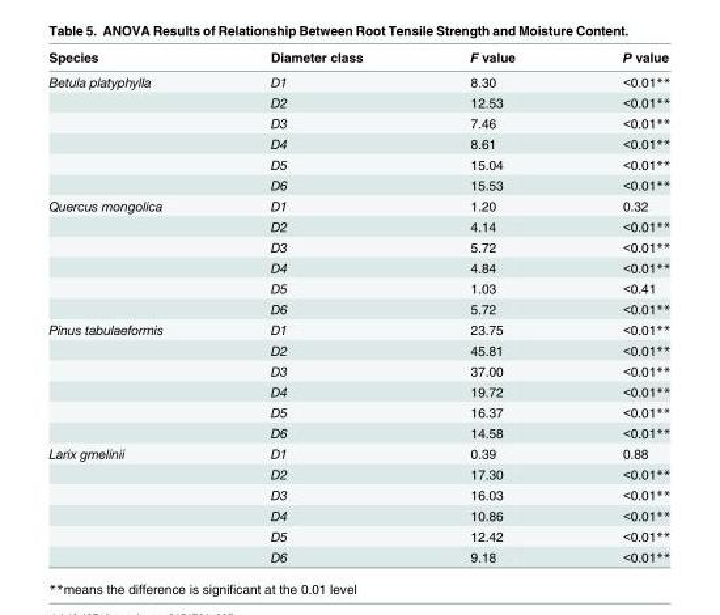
<table><thead><tr><td>Species</td><td>Diameter class</td><td>F value</td><td>P value</td></tr></thead><tbody><tr><td rowspan="6">Betula platyphylla</td><td>D1</td><td>8.30</td><td>&lt;0.01**</td></tr><tr><td>D2</td><td>12.53</td><td>&lt;0.01**</td></tr><tr><td>D3</td><td>7.46</td><td>&lt;0.01**</td></tr><tr><td>D4</td><td>8.61</td><td>&lt;0.01**</td></tr><tr><td>D5</td><td>15.04</td><td>&lt;0.01**</td></tr><tr><td>D6</td><td>15.53</td><td>&lt;0.01**</td></tr><tr><td rowspan="6">Quercus mongolica</td><td>D1</td><td>1.20</td><td>0.32</td></tr><tr><td>D2</td><td>4.14</td><td>&lt;0.01**</td></tr><tr><td>D3</td><td>5.72</td><td>&lt;0.01**</td></tr><tr><td>D4</td><td>4.84</td><td>&lt;0.01**</td></tr><tr><td>D5</td><td>1.03</td><td>&lt;0.41</td></tr><tr><td>D6</td><td>5.72</td><td>&lt;0.01**</td></tr><tr><td rowspan="6">Pinus tabulaeformis</td><td>D1</td><td>23.75</td><td>&lt;0.01**</td></tr><tr><td>D2</td><td>45.81</td><td>&lt;0.01**</td></tr><tr><td>D3</td><td>37.00</td><td>&lt;0.01**</td></tr><tr><td>D4</td><td>19.72</td><td>&lt;0.01**</td></tr><tr><td>D5</td><td>16.37</td><td>&lt;0.01**</td></tr><tr><td>D6</td><td>14.58</td><td>&lt;0.01**</td></tr><tr><td rowspan="6">Larix gmelinii</td><td>D1</td><td>0.39</td><td>0.88</td></tr><tr><td>D2</td><td>17.30</td><td>&lt;0.01**</td></tr><tr><td>D3</td><td>16.03</td><td>&lt;0.01**</td></tr><tr><td>D4</td><td>10.86</td><td>&lt;0.01**</td></tr><tr><td>D5</td><td>12.42</td><td>&lt;0.01**</td></tr><tr><td>D6</td><td>9.18</td><td>&lt;0.01**</td></tr></tbody></table>